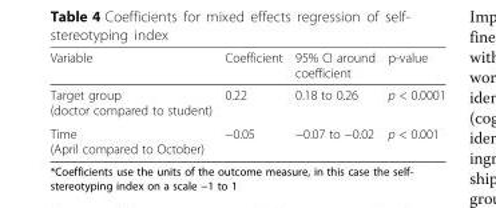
<table><thead><tr><td>Variable</td><td>Coefficient</td><td>95% CI around coefficient</td><td>p-value</td></tr></thead><tbody><tr><td>Target group (doctor compared to student)</td><td>0.22</td><td>0.18 to 0.26</td><td>p &lt; 0.0001</td></tr><tr><td>Time (April compared to October)</td><td>−0.05</td><td>−0.07 to −0.02</td><td>p &lt; 0.001</td></tr></tbody></table>